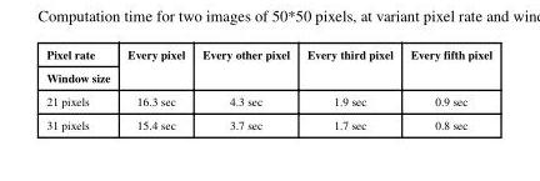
<table><thead><tr><td rowspan="2">Pixel rate Window size</td><td rowspan="2">Every pixel</td><td rowspan="2">Every other pixel</td><td rowspan="2">Every third pixel</td><td rowspan="2">Every fifth pixel</td></tr><tr></tr></thead><tbody><tr><td>21 pixels</td><td>16.3 sec</td><td>4.3 sec</td><td>1.9 sec</td><td>0.9 sec</td></tr><tr><td>31 pixels</td><td>15.4 sec</td><td>3.7 sec</td><td>1.7 sec</td><td>0.8 sec</td></tr></tbody></table>